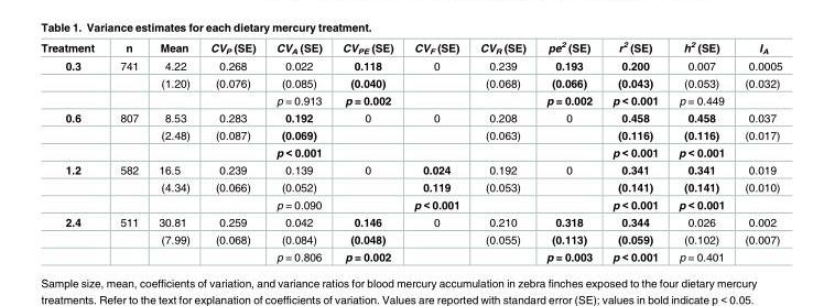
<table><thead><tr><td>Treatment</td><td>n</td><td>Mean</td><td>CV<sub>P</sub> (SE)</td><td>CV<sub>A</sub> (SE)</td><td>CV<sub>PE</sub> (SE)</td><td>CV<sub>F</sub> (SE)</td><td>CV<sub>R</sub> (SE)</td><td>pe<sup>2</sup> (SE)</td><td>r<sup>2</sup> (SE)</td><td>h<sup>2</sup> (SE)</td><td>I<sub>A</sub></td></tr></thead><tbody><tr><td rowspan="3">0.3</td><td>741</td><td>4.22</td><td>0.268</td><td>0.022</td><td>0.118</td><td>0</td><td>0.239</td><td>0.193</td><td>0.200</td><td>0.007</td><td>0.0005</td></tr><tr><td></td><td>(1.20)</td><td>(0.076)</td><td>(0.085)</td><td>(0.040)</td><td></td><td>(0.068)</td><td>(0.066)</td><td>(0.043)</td><td>(0.053)</td><td>(0.032)</td></tr><tr><td></td><td></td><td></td><td>p = 0.913</td><td>p = 0.002</td><td></td><td></td><td>p = 0.002</td><td>p &lt; 0.001</td><td>p = 0.449</td><td></td></tr><tr><td rowspan="3">0.6</td><td>807</td><td>8.53</td><td>0.283</td><td>0.192</td><td>0</td><td>0</td><td>0.208</td><td>0</td><td>0.458</td><td>0.458</td><td>0.037</td></tr><tr><td></td><td>(2.48)</td><td>(0.087)</td><td>(0.069)</td><td></td><td></td><td>(0.063)</td><td></td><td>(0.116)</td><td>(0.116)</td><td>(0.017)</td></tr><tr><td></td><td></td><td></td><td>p &lt; 0.001</td><td></td><td></td><td></td><td></td><td>p &lt; 0.001</td><td>p &lt; 0.001</td><td></td></tr><tr><td rowspan="3">1.2</td><td>582</td><td>16.5</td><td>0.239</td><td>0.139</td><td>0</td><td>0.024</td><td>0.192</td><td>0</td><td>0.341</td><td>0.341</td><td>0.019</td></tr><tr><td></td><td>(4.34)</td><td>(0.066)</td><td>(0.052)</td><td></td><td>0.119</td><td>(0.053)</td><td></td><td>(0.141)</td><td>(0.141)</td><td>(0.010)</td></tr><tr><td></td><td></td><td></td><td>p = 0.090</td><td></td><td>p &lt; 0.001</td><td></td><td></td><td>p &lt; 0.001</td><td>p &lt; 0.001</td><td></td></tr><tr><td rowspan="3">2.4</td><td>511</td><td>30.81</td><td>0.259</td><td>0.042</td><td>0.146</td><td>0</td><td>0.210</td><td>0.318</td><td>0.344</td><td>0.026</td><td>0.002</td></tr><tr><td></td><td>(7.99)</td><td>(0.068)</td><td>(0.084)</td><td>(0.048)</td><td></td><td>(0.055)</td><td>(0.113)</td><td>(0.059)</td><td>(0.102)</td><td>(0.007)</td></tr><tr><td></td><td></td><td></td><td>p = 0.806</td><td>p = 0.002</td><td></td><td></td><td>p = 0.003</td><td>p &lt; 0.001</td><td>p = 0.401</td><td></td></tr></tbody></table>